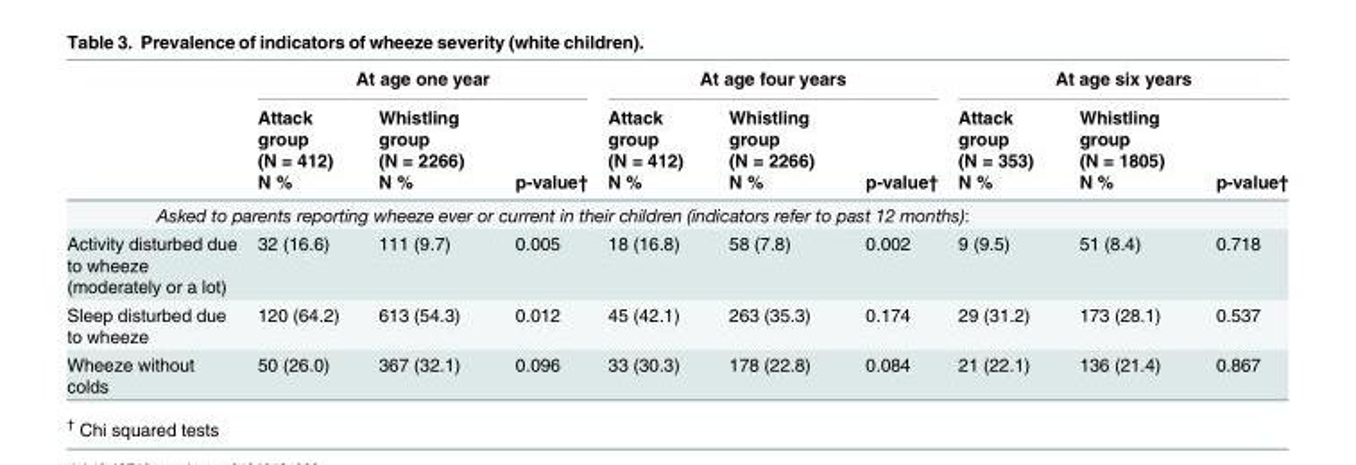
<table><thead><tr><td rowspan="3"></td><td colspan="3">At age one year</td><td colspan="3">At age four years</td><td colspan="3">At age six years</td></tr><tr><td rowspan="2">Attack group (N = 412) N %</td><td rowspan="2">Whistling group (N = 2266) N %</td><td rowspan="2">p-value†</td><td rowspan="2">Attack group (N = 412) N %</td><td rowspan="2">Whistling group (N = 2266) N %</td><td rowspan="2">p-value†</td><td rowspan="2">Attack group (N = 353) N %</td><td rowspan="2">Whistling group (N = 1805) N %</td><td rowspan="2">p-value†</td></tr><tr></tr></thead><tbody><tr><td colspan="10">Asked to parents reporting wheeze ever or current in their children (indicators refer to past 12 months):</td></tr><tr><td>Activity disturbed due to wheeze (moderately or a lot)</td><td>32 (16.6)</td><td>111 (9.7)</td><td>0.005</td><td>18 (16.8)</td><td>58 (7.8)</td><td>0.002</td><td>9 (9.5)</td><td>51 (8.4)</td><td>0.718</td></tr><tr><td>Sleep disturbed due to wheeze</td><td>120 (64.2)</td><td>613 (54.3)</td><td>0.012</td><td>45 (42.1)</td><td>263 (35.3)</td><td>0.174</td><td>29 (31.2)</td><td>173 (28.1)</td><td>0.537</td></tr><tr><td>Wheeze without colds</td><td>50 (26.0)</td><td>367 (32.1)</td><td>0.096</td><td>33 (30.3)</td><td>178 (22.8)</td><td>0.084</td><td>21 (22.1)</td><td>136 (21.4)</td><td>0.867</td></tr></tbody></table>